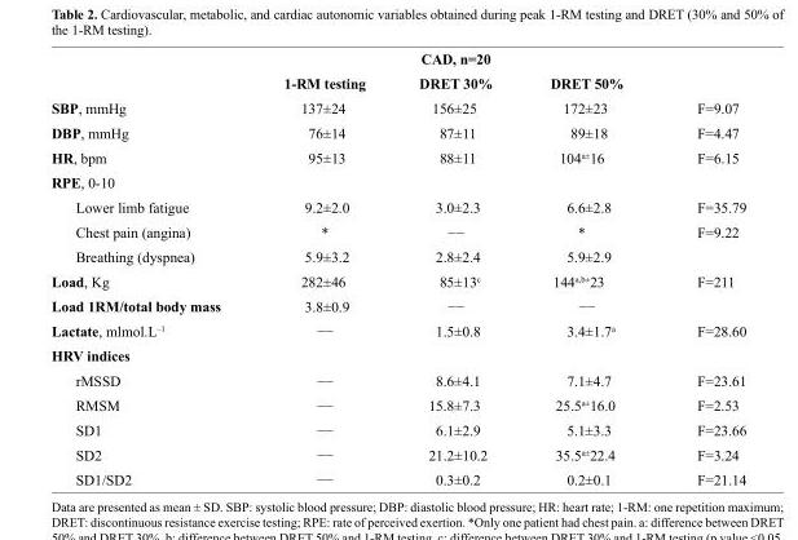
<table><thead><tr><td rowspan="2"></td><td colspan="3">CAD, n=20</td><td rowspan="2"></td></tr><tr><td>1-RM testing</td><td>DRET 30%</td><td>DRET 50%</td></tr></thead><tbody><tr><td>SBP, mmHg</td><td>137±24</td><td>156±25</td><td>172±23</td><td>F=9.07</td></tr><tr><td>DBP, mmHg</td><td>76±14</td><td>87±11</td><td>89±18</td><td>F=4.47</td></tr><tr><td>HR, bpm</td><td>95±13</td><td>88±11</td><td>104a<sup>±</sup>16</td><td>F=6.15</td></tr><tr><td>RPE, 0‑10 Lower limb fatigue Chest pain (angina) Breathing (dyspnea)</td><td>9.2±2.0 * 5.9±3.2</td><td>3.0±2.3 −− 2.8±2.4</td><td>6.6±2.8 * 5.9±2.9</td><td>F=35.79 F=9.22</td></tr><tr><td>Load, Kg</td><td>282±46</td><td>85±13c</td><td>144a,b<sup>±</sup>23</td><td>F=211</td></tr><tr><td>Load 1RM/total body mass</td><td>3.8±0.9</td><td>−−</td><td>−−</td><td></td></tr><tr><td>Lactate, mlmol.L<sup>–1</sup></td><td>−−</td><td>1.5±0.8</td><td>3.4±1.7a</td><td>F=28.60</td></tr><tr><td>HRV indices rMSSD RMSM SD1 SD2 SD1/SD2</td><td>−− −− −− −− −−</td><td>8.6±4.1 15.8±7.3 6.1±2.9 21.2±10.2 0.3±0.2</td><td>7.1±4.7 25.5a<sup>±</sup>16.0 5.1±3.3 35.5a<sup>±</sup>22.4 0.2±0.1</td><td>F=23.61 F=2.53 F=23.66 F=3.24 F=21.14</td></tr></tbody></table>